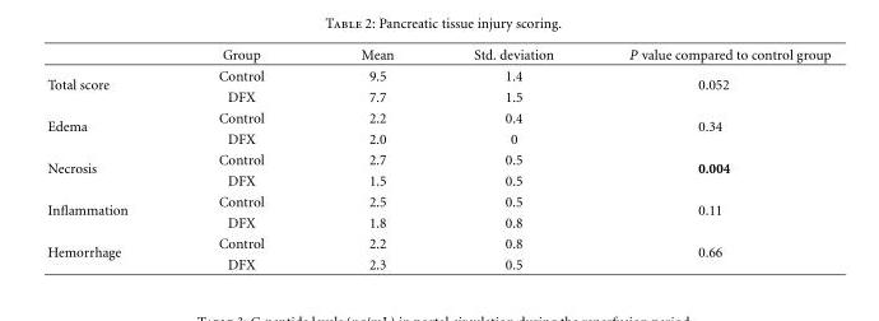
<table><thead><tr><td></td><td>Group</td><td>Mean</td><td>Std. deviation</td><td>P value compared to control group</td></tr></thead><tbody><tr><td rowspan="2">Total score</td><td>Control</td><td>9.5</td><td>1.4</td><td rowspan="2">0.052</td></tr><tr><td>DFX</td><td>7.7</td><td>1.5</td></tr><tr><td rowspan="2">Edema</td><td>Control</td><td>2.2</td><td>0.4</td><td rowspan="2">0.34</td></tr><tr><td>DFX</td><td>2.0</td><td>0</td></tr><tr><td rowspan="2">Necrosis</td><td>Control</td><td>2.7</td><td>0.5</td><td rowspan="2">0.004</td></tr><tr><td>DFX</td><td>1.5</td><td>0.5</td></tr><tr><td rowspan="2">Inflammation</td><td>Control</td><td>2.5</td><td>0.5</td><td rowspan="2">0.11</td></tr><tr><td>DFX</td><td>1.8</td><td>0.8</td></tr><tr><td rowspan="2">Hemorrhage</td><td>Control</td><td>2.2</td><td>0.8</td><td rowspan="2">0.66</td></tr><tr><td>DFX</td><td>2.3</td><td>0.5</td></tr></tbody></table>